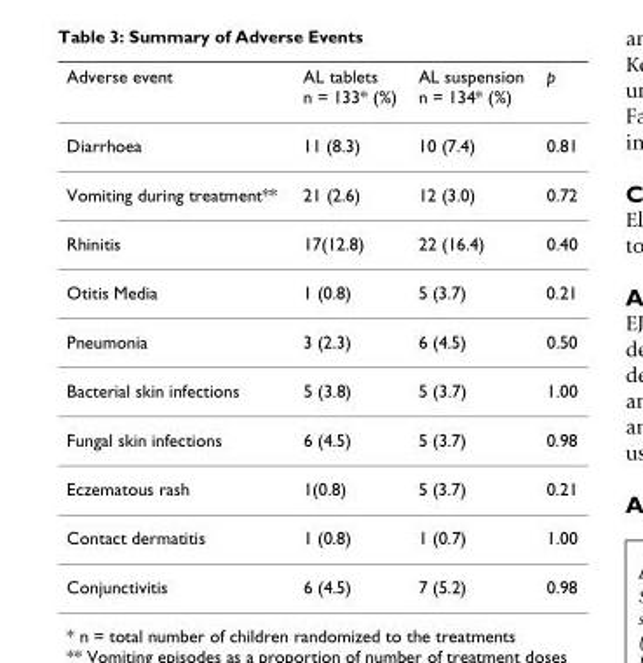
<table><thead><tr><td>Adverse event</td><td>AL tablets n = 133* (%)</td><td>AL suspension n = 134* (%)</td><td>p</td></tr></thead><tbody><tr><td>Diarrhoea</td><td>11 (8.3)</td><td>10 (7.4)</td><td>0.81</td></tr><tr><td>Vomiting during treatment**</td><td>21 (2.6)</td><td>12 (3.0)</td><td>0.72</td></tr><tr><td>Rhinitis</td><td>17(12.8)</td><td>22 (16.4)</td><td>0.40</td></tr><tr><td>Otitis Media</td><td>1 (0.8)</td><td>5 (3.7)</td><td>0.21</td></tr><tr><td>Pneumonia</td><td>3 (2.3)</td><td>6 (4.5)</td><td>0.50</td></tr><tr><td>Bacterial skin infections</td><td>5 (3.8)</td><td>5 (3.7)</td><td>1.00</td></tr><tr><td>Fungal skin infections</td><td>6 (4.5)</td><td>5 (3.7)</td><td>0.98</td></tr><tr><td>Eczematous rash</td><td>1(0.8)</td><td>5 (3.7)</td><td>0.21</td></tr><tr><td>Contact dermatitis</td><td>1 (0.8)</td><td>1 (0.7)</td><td>1.00</td></tr><tr><td>Conjunctivitis</td><td>6 (4.5)</td><td>7 (5.2)</td><td>0.98</td></tr></tbody></table>